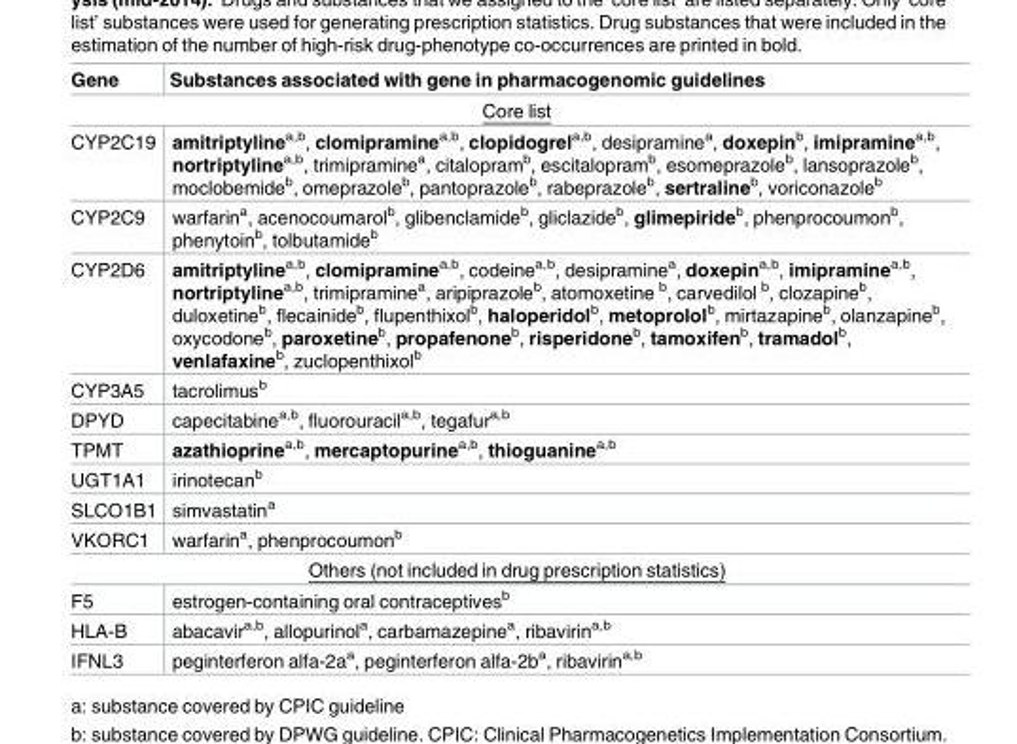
<table><thead><tr><td>Gene</td><td>Substances associated with gene in pharmacogenomic guidelines</td></tr></thead><tbody><tr><td colspan="2">Core list</td></tr><tr><td>CYP2C19</td><td>amitriptylinea,b, clomipraminea,b, clopidogrela,b, desipraminea, doxepinb, imipraminea,b, nortriptylinea,b, trimipraminea, citalopramb, escitalopramb, esomeprazoleb, lansoprazoleb, moclobemideb, omeprazoleb, pantoprazoleb, rabeprazoleb, sertralineb, voriconazoleb</td></tr><tr><td>CYP2C9</td><td>warfarin<sup>a</sup>, acenocoumarol<sup>b</sup>, glibenclamide<sup>b</sup>, gliclazide<sup>b</sup>, glimepiride<sup>b</sup>, phenprocoumon<sup>b</sup>, phenytoin<sup>b</sup>, tolbutamide<sup>b</sup></td></tr><tr><td>CYP2D6</td><td>amitriptylinea,b, clomipraminea,b, codeinea,b, desipraminea, doxepina,b, imipraminea,b, nortriptylinea,b, trimipraminea, aripiprazoleb, atomoxetine b, carvedilol b, clozapineb, duloxetineb, flecainideb, flupenthixolb, haloperidolb, metoprololb, mirtazapineb, olanzapineb, oxycodoneb, paroxetineb, propafenoneb, risperidoneb, tamoxifenb, tramadolb, venlafaxineb, zuclopenthixolb</td></tr><tr><td>CYP3A5</td><td>tacrolimus<sup>b</sup></td></tr><tr><td>DPYD</td><td>capecitabine<sup>a,b</sup>, fluorouracil<sup>a,b</sup>, tegafur<sup>a,b</sup></td></tr><tr><td>TPMT</td><td>azathioprine<sup>a,b</sup>, mercaptopurine<sup>a,b</sup>, thioguanine<sup>a,b</sup></td></tr><tr><td>UGT1A1</td><td>irinotecan<sup>b</sup></td></tr><tr><td>SLCO1B1</td><td>simvastatin<sup>a</sup></td></tr><tr><td>VKORC1</td><td>warfarin<sup>a</sup>, phenprocoumon<sup>b</sup></td></tr><tr><td colspan="2">Others (not included in drug prescription statistics)</td></tr><tr><td>F5</td><td>estrogen-containing oral contraceptives<sup>b</sup></td></tr><tr><td>HLA-B</td><td>abacavir<sup>a,b</sup>, allopurinol<sup>a</sup>, carbamazepine<sup>a</sup>, ribavirin<sup>a,b</sup></td></tr><tr><td>IFNL3</td><td>peginterferon alfa-2a<sup>a</sup>, peginterferon alfa-2b<sup>a</sup>, ribavirin<sup>a,b</sup></td></tr></tbody></table>